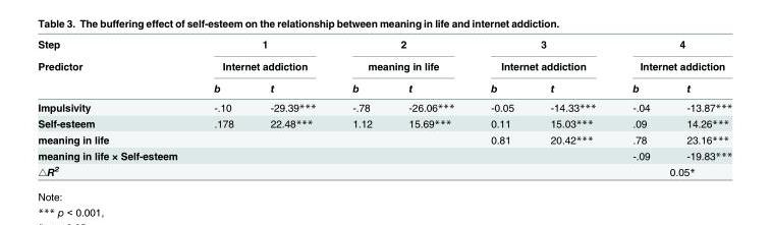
<table><thead><tr><td rowspan="3">Step Predictor</td><td rowspan="2" colspan="2">1 Internet addiction</td><td rowspan="2" colspan="2">2 meaning in life</td><td rowspan="2" colspan="2">3 Internet addiction</td><td rowspan="2" colspan="2">4 Internet addiction</td></tr><tr></tr><tr><td>b</td><td>t</td><td>b</td><td>t</td><td>b</td><td>t</td><td>b</td><td>t</td></tr></thead><tbody><tr><td>Impulsivity</td><td>-.10</td><td>-29.39***</td><td>-.78</td><td>-26.06***</td><td>-0.05</td><td>-14.33***</td><td>-.04</td><td>-13.87***</td></tr><tr><td>Self-esteem</td><td>.178</td><td>22.48***</td><td>1.12</td><td>15.69***</td><td>0.11</td><td>15.03***</td><td>.09</td><td>14.26***</td></tr><tr><td>meaning in life</td><td></td><td></td><td></td><td></td><td>0.81</td><td>20.42***</td><td>.78</td><td>23.16***</td></tr><tr><td>meaning in life × Self-esteem</td><td></td><td></td><td></td><td></td><td></td><td></td><td>-.09</td><td>-19.83***</td></tr><tr><td>△R<sup>2</sup></td><td colspan="2"></td><td colspan="2"></td><td colspan="2"></td><td colspan="2">0.05*</td></tr></tbody></table>